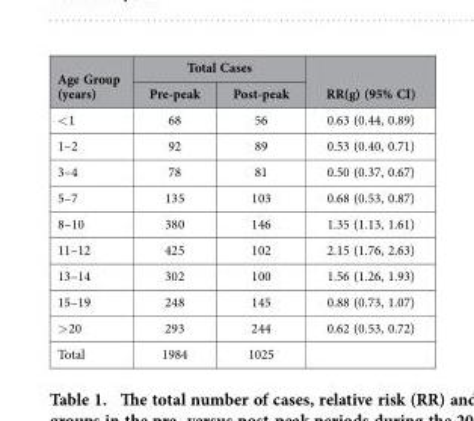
<table><thead><tr><td rowspan="2">Age Group (years)</td><td colspan="2">Total Cases</td><td rowspan="2">RR(g) (95% CI)</td></tr><tr><td>Pre-peak</td><td>Post-peak</td></tr></thead><tbody><tr><td>&lt; 1</td><td>68</td><td>56</td><td>0.63 (0.44, 0.89)</td></tr><tr><td>1–2</td><td>92</td><td>89</td><td>0.53 (0.40, 0.71)</td></tr><tr><td>3–4</td><td>78</td><td>81</td><td>0.50 (0.37, 0.67)</td></tr><tr><td>5–7</td><td>135</td><td>103</td><td>0.68 (0.53, 0.87)</td></tr><tr><td>8–10</td><td>380</td><td>146</td><td>1.35 (1.13, 1.61)</td></tr><tr><td>11–12</td><td>425</td><td>102</td><td>2.15 (1.76, 2.63)</td></tr><tr><td>13–14</td><td>302</td><td>100</td><td>1.56 (1.26, 1.93)</td></tr><tr><td>15–19</td><td>248</td><td>145</td><td>0.88 (0.73, 1.07)</td></tr><tr><td>&gt; 20</td><td>293</td><td>244</td><td>0.62 (0.53, 0.72)</td></tr><tr><td>Total</td><td>1984</td><td>1025</td><td></td></tr></tbody></table>